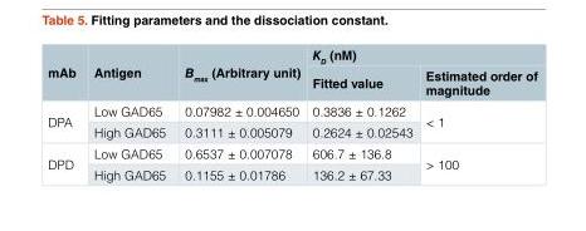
<table><thead><tr><td rowspan="2">mAb</td><td rowspan="2">Antigen</td><td rowspan="2">B<sub>max</sub> (Arbitrary unit)</td><td colspan="2">K<sub>D</sub> (nM)</td></tr><tr><td>Fitted value</td><td>Estimated order of magnitude</td></tr></thead><tbody><tr><td rowspan="2">DPA</td><td>Low GAD65</td><td>0.07982 ± 0.004650</td><td>0.3836 ± 0.1262</td><td rowspan="2">&lt; 1</td></tr><tr><td>High GAD65</td><td>0.3111 ± 0.005079</td><td>0.2624 ± 0.02543</td></tr><tr><td rowspan="2">DPD</td><td>Low GAD65</td><td>0.6537 ± 0.007078</td><td>606.7 ± 136.8</td><td rowspan="2">&gt; 100</td></tr><tr><td>High GAD65</td><td>0.1155 ± 0.01786</td><td>136.2 ± 67.33</td></tr></tbody></table>